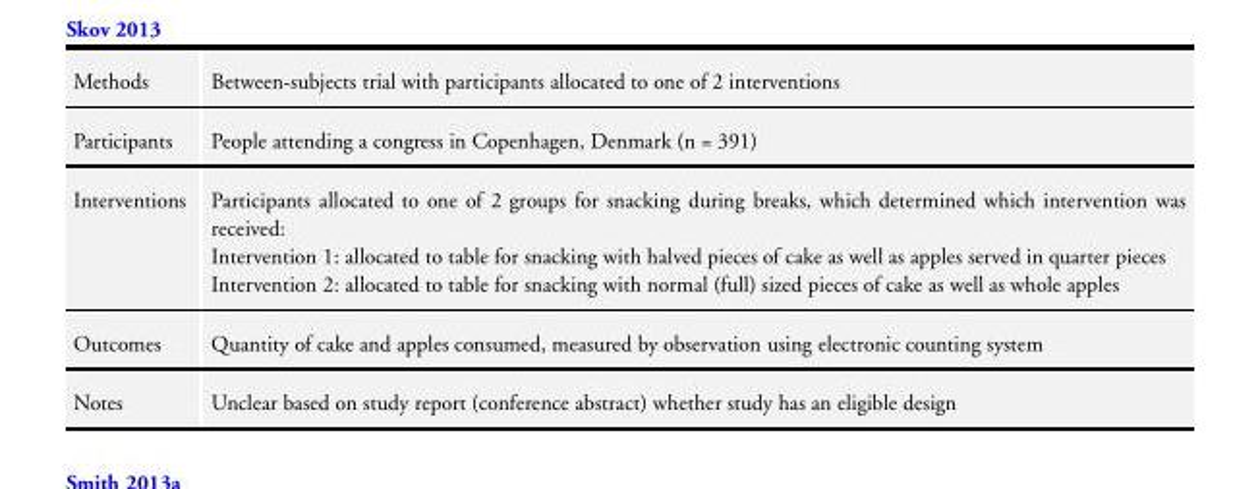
<table><tbody><tr><td>Methods</td><td>Between-subjects trial with participants allocated to one of 2 interventions</td></tr><tr><td>Participants</td><td>People attending a congress in Copenhagen, Denmark (n = 391)</td></tr><tr><td>Interventions</td><td>Participants allocated to one of 2 groups for snacking during breaks, which determined which intervention was received: Intervention 1: allocated to table for snacking with halved pieces of cake as well as apples served in quarter pieces Intervention 2: allocated to table for snacking with normal (full) sized pieces of cake as well as whole apples</td></tr><tr><td>Outcomes</td><td>Quantity of cake and apples consumed, measured by observation using electronic counting system</td></tr><tr><td>Notes</td><td>Unclear based on study report (conference abstract) whether study has an eligible design</td></tr></tbody></table>